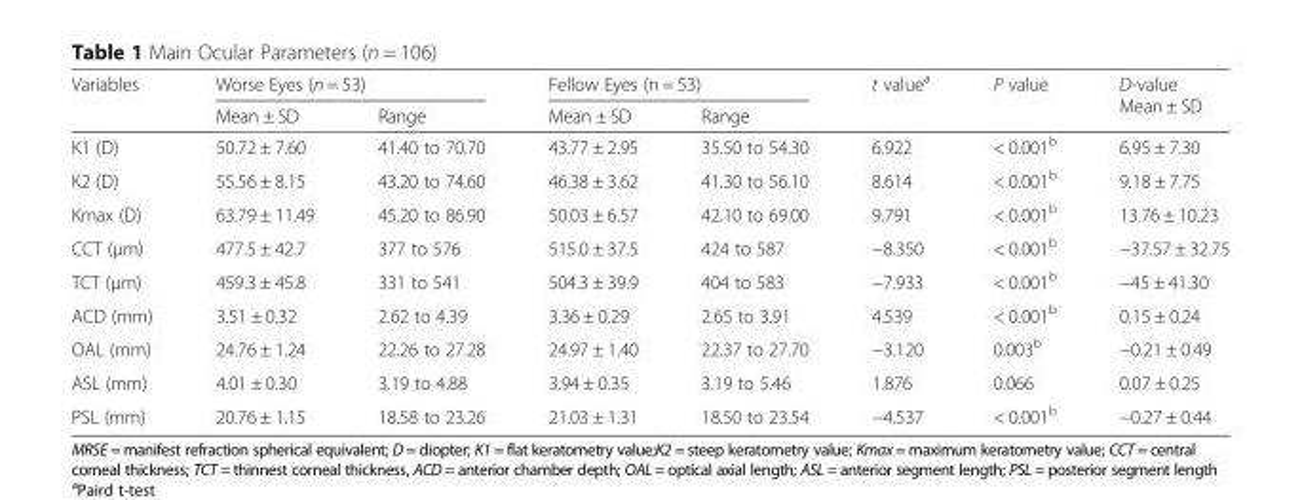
<table><thead><tr><td rowspan="2">Variables</td><td colspan="2">Worse Eyes (n = 53)</td><td colspan="2">Fellow Eyes (n = 53)</td><td rowspan="2">t value<sup>a</sup></td><td rowspan="2">P value</td><td rowspan="2">D-value Mean ± SD</td></tr><tr><td>Mean ± SD</td><td>Range</td><td>Mean ± SD</td><td>Range</td></tr></thead><tbody><tr><td>K1 (D)</td><td>50.72 ± 7.60</td><td>41.40 to 70.70</td><td>43.77 ± 2.95</td><td>35.50 to 54.30</td><td>6.922</td><td>&lt; 0.001<sup>b</sup></td><td>6.95 ± 7.30</td></tr><tr><td>K2 (D)</td><td>55.56 ± 8.15</td><td>43.20 to 74.60</td><td>46.38 ± 3.62</td><td>41.30 to 56.10</td><td>8.614</td><td>&lt; 0.001<sup>b</sup></td><td>9.18 ± 7.75</td></tr><tr><td>Kmax (D)</td><td>63.79 ± 11.49</td><td>45.20 to 86.90</td><td>50.03 ± 6.57</td><td>42.10 to 69.00</td><td>9.791</td><td>&lt; 0.001<sup>b</sup></td><td>13.76 ± 10.23</td></tr><tr><td>CCT (μm)</td><td>477.5 ± 42.7</td><td>377 to 576</td><td>515.0 ± 37.5</td><td>424 to 587</td><td>−8.350</td><td>&lt; 0.001<sup>b</sup></td><td>−37.57 ± 32.75</td></tr><tr><td>TCT (μm)</td><td>459.3 ± 45.8</td><td>331 to 541</td><td>504.3 ± 39.9</td><td>404 to 583</td><td>−7.933</td><td>&lt; 0.001<sup>b</sup></td><td>−45 ± 41.30</td></tr><tr><td>ACD (mm)</td><td>3.51 ± 0.32</td><td>2.62 to 4.39</td><td>3.36 ± 0.29</td><td>2.65 to 3.91</td><td>4.539</td><td>&lt; 0.001<sup>b</sup></td><td>0.15 ± 0.24</td></tr><tr><td>OAL (mm)</td><td>24.76 ± 1.24</td><td>22.26 to 27.28</td><td>24.97 ± 1.40</td><td>22.37 to 27.70</td><td>−3.120</td><td>0.003<sup>b</sup></td><td>−0.21 ± 0.49</td></tr><tr><td>ASL (mm)</td><td>4.01 ± 0.30</td><td>3.19 to 4.88</td><td>3.94 ± 0.35</td><td>3.19 to 5.46</td><td>1.876</td><td>0.066</td><td>0.07 ± 0.25</td></tr><tr><td>PSL (mm)</td><td>20.76 ± 1.15</td><td>18.58 to 23.26</td><td>21.03 ± 1.31</td><td>18.50 to 23.54</td><td>−4.537</td><td>&lt; 0.001<sup>b</sup></td><td>−0.27 ± 0.44</td></tr></tbody></table>